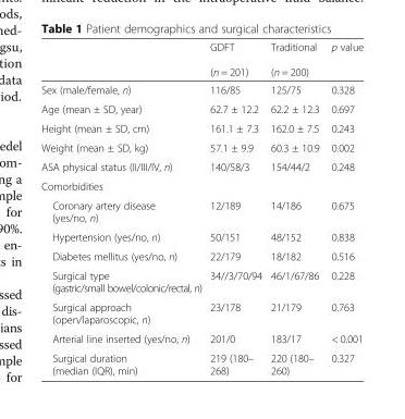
<table><thead><tr><td></td><td>GDFT (n = 201)</td><td>Traditional (n = 200)</td><td>p value</td></tr></thead><tbody><tr><td>Sex (male/female, n)</td><td>116/85</td><td>125/75</td><td>0.328</td></tr><tr><td>Age (mean ± SD, year)</td><td>62.7 ± 12.2</td><td>62.2 ± 12.3</td><td>0.697</td></tr><tr><td>Height (mean ± SD, cm)</td><td>161.1 ± 7.3</td><td>162.0 ± 7.5</td><td>0.243</td></tr><tr><td>Weight (mean ± SD, kg)</td><td>57.1 ± 9.9</td><td>60.3 ± 10.9</td><td>0.002</td></tr><tr><td>ASA physical status (II/III/IV, n)</td><td>140/58/3</td><td>154/44/2</td><td>0.248</td></tr><tr><td colspan="4">Comorbidities</td></tr><tr><td>Coronary artery disease (yes/no, n)</td><td>12/189</td><td>14/186</td><td>0.675</td></tr><tr><td>Hypertension (yes/no, n)</td><td>50/151</td><td>48/152</td><td>0.838</td></tr><tr><td>Diabetes mellitus (yes/no, n)</td><td>22/179</td><td>18/182</td><td>0.516</td></tr><tr><td>Surgical type (gastric/small bowel/colonic/rectal, n)</td><td>34//3/70/94</td><td>46/1/67/86</td><td>0.228</td></tr><tr><td>Surgical approach (open/laparoscopic, n)</td><td>23/178</td><td>21/179</td><td>0.763</td></tr><tr><td>Arterial line inserted (yes/no, n)</td><td>201/0</td><td>183/17</td><td>&lt; 0.001</td></tr><tr><td>Surgical duration (median (IQR), min)</td><td>219 (180– 268)</td><td>220 (180– 260)</td><td>0.327</td></tr></tbody></table>